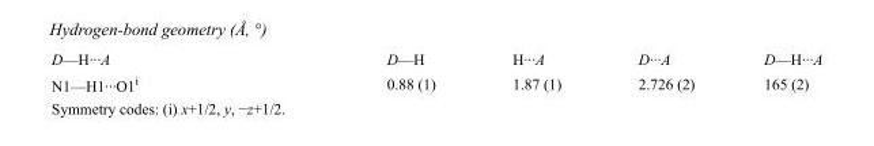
<table><tbody><tr><td>D—H···A</td><td>D—H</td><td>H···A</td><td>D···A</td><td>D—H···A</td></tr><tr><td>N1—H1···O1<sup>i</sup></td><td>0.88 (1)</td><td>1.87 (1)</td><td>2.726 (2)</td><td>165 (2)</td></tr></tbody></table>